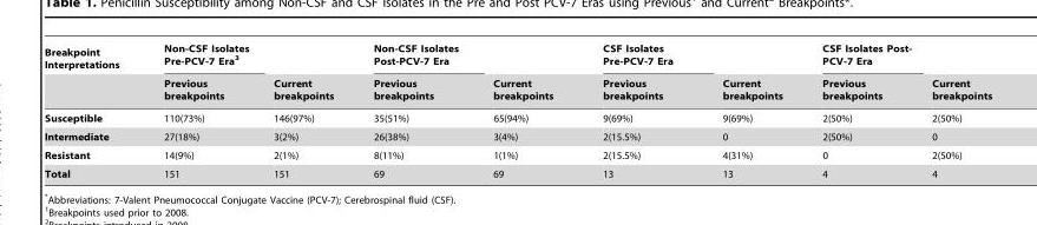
<table><thead><tr><td rowspan="2">Breakpoint Interpretations</td><td rowspan="2">Non-CSF Isolates Pre-PCV-7 Era<sup>3</sup> Previous breakpoints</td><td rowspan="2">Current breakpoints</td><td rowspan="2">Non-CSF Isolates Post-PCV-7 Era Previous breakpoints</td><td rowspan="2">Current breakpoints</td><td rowspan="2">CSF Isolates Pre-PCV-7 Era Previous breakpoints</td><td rowspan="2">Current breakpoints</td><td rowspan="2">CSF Isolates Post- PCV-7 Era Previous breakpoints</td><td rowspan="2">Current breakpoints</td></tr><tr></tr></thead><tbody><tr><td>Susceptible</td><td>110(73%)</td><td>146(97%)</td><td>35(51%)</td><td>65(94%)</td><td>9(69%)</td><td>9(69%)</td><td>2(50%)</td><td>2(50%)</td></tr><tr><td>Intermediate</td><td>27(18%)</td><td>3(2%)</td><td>26(38%)</td><td>3(4%)</td><td>2(15.5%)</td><td>0</td><td>2(50%)</td><td>0</td></tr><tr><td>Resistant</td><td>14(9%)</td><td>2(1%)</td><td>8(11%)</td><td>1(1%)</td><td>2(15.5%)</td><td>4(31%)</td><td>0</td><td>2(50%)</td></tr><tr><td>Total</td><td>151</td><td>151</td><td>69</td><td>69</td><td>13</td><td>13</td><td>4</td><td>4</td></tr></tbody></table>